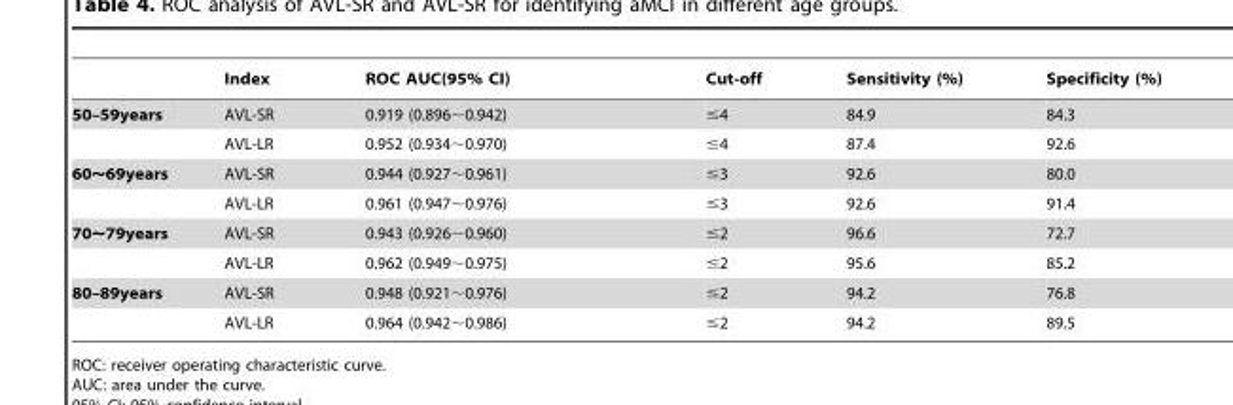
<table><thead><tr><td></td><td>Index</td><td>ROC AUC(95% CI)</td><td>Cut-off</td><td>Sensitivity (%)</td><td>Specificity (%)</td></tr></thead><tbody><tr><td rowspan="2">50–59years</td><td>AVL-SR</td><td>0.919 (0.896∼0.942)</td><td>≤4</td><td>84.9</td><td>84.3</td></tr><tr><td>AVL-LR</td><td>0.952 (0.934∼0.970)</td><td>≤4</td><td>87.4</td><td>92.6</td></tr><tr><td rowspan="2">60∼69years</td><td>AVL-SR</td><td>0.944 (0.927∼0.961)</td><td>≤3</td><td>92.6</td><td>80.0</td></tr><tr><td>AVL-LR</td><td>0.961 (0.947∼0.976)</td><td>≤3</td><td>92.6</td><td>91.4</td></tr><tr><td rowspan="2">70∼79years</td><td>AVL-SR</td><td>0.943 (0.926∼0.960)</td><td>≤2</td><td>96.6</td><td>72.7</td></tr><tr><td>AVL-LR</td><td>0.962 (0.949∼0.975)</td><td>≤2</td><td>95.6</td><td>85.2</td></tr><tr><td rowspan="2">80–89years</td><td>AVL-SR</td><td>0.948 (0.921∼0.976)</td><td>≤2</td><td>94.2</td><td>76.8</td></tr><tr><td>AVL-LR</td><td>0.964 (0.942∼0.986)</td><td>≤2</td><td>94.2</td><td>89.5</td></tr></tbody></table>